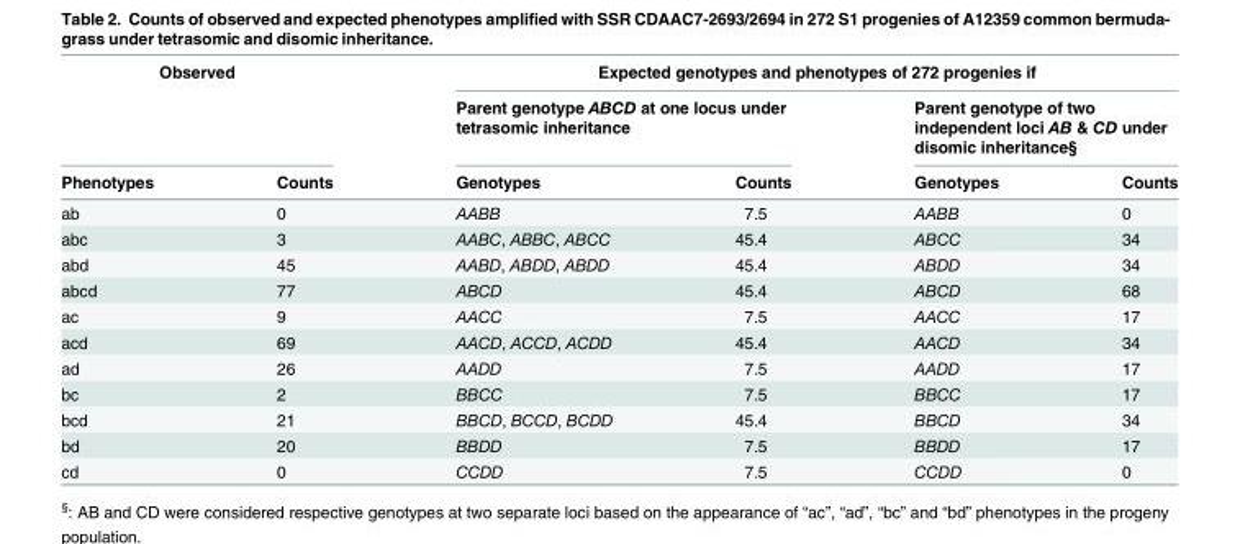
<table><thead><tr><td rowspan="2" colspan="2">Observed</td><td colspan="4">Expected genotypes and phenotypes of 272 progenies if</td></tr><tr><td colspan="2">Parent genotype ABCD at one locus under tetrasomic inheritance</td><td colspan="2">Parent genotype of two independent loci AB &amp; CD under disomic inheritance§</td></tr><tr><td>Phenotypes</td><td>Counts</td><td>Genotypes</td><td>Counts</td><td>Genotypes</td><td>Counts</td></tr></thead><tbody><tr><td>ab</td><td>0</td><td>AABB</td><td>7.5</td><td>AABB</td><td>0</td></tr><tr><td>abc</td><td>3</td><td>AABC, ABBC, ABCC</td><td>45.4</td><td>ABCC</td><td>34</td></tr><tr><td>abd</td><td>45</td><td>AABD, ABDD, ABDD</td><td>45.4</td><td>ABDD</td><td>34</td></tr><tr><td>abcd</td><td>77</td><td>ABCD</td><td>45.4</td><td>ABCD</td><td>68</td></tr><tr><td>ac</td><td>9</td><td>AACC</td><td>7.5</td><td>AACC</td><td>17</td></tr><tr><td>acd</td><td>69</td><td>AACD, ACCD, ACDD</td><td>45.4</td><td>AACD</td><td>34</td></tr><tr><td>ad</td><td>26</td><td>AADD</td><td>7.5</td><td>AADD</td><td>17</td></tr><tr><td>bc</td><td>2</td><td>BBCC</td><td>7.5</td><td>BBCC</td><td>17</td></tr><tr><td>bcd</td><td>21</td><td>BBCD, BCCD, BCDD</td><td>45.4</td><td>BBCD</td><td>34</td></tr><tr><td>bd</td><td>20</td><td>BBDD</td><td>7.5</td><td>BBDD</td><td>17</td></tr><tr><td>cd</td><td>0</td><td>CCDD</td><td>7.5</td><td>CCDD</td><td>0</td></tr></tbody></table>